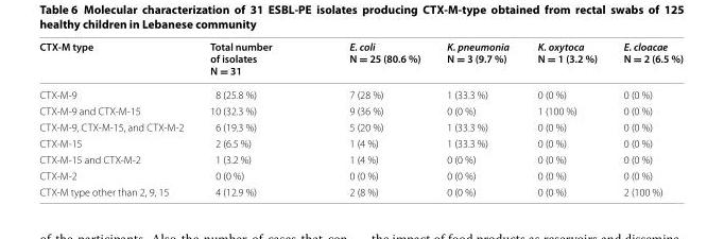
<table><thead><tr><td>CTX‑M type</td><td>Total number of isolates N = 31</td><td>E. coli N = 25 (80.6 %)</td><td>K. pneumonia N = 3 (9.7 %)</td><td>K. oxytoca N = 1 (3.2 %)</td><td>E. cloacae N = 2 (6.5 %)</td></tr></thead><tbody><tr><td>CTX-M-9</td><td>8 (25.8 %)</td><td>7 (28 %)</td><td>1 (33.3 %)</td><td>0 (0 %)</td><td>0 (0 %)</td></tr><tr><td>CTX-M-9 and CTX-M-15</td><td>10 (32.3 %)</td><td>9 (36 %)</td><td>0 (0 %)</td><td>1 (100 %)</td><td>0 (0 %)</td></tr><tr><td>CTX-M-9, CTX-M-15, and CTX-M-2</td><td>6 (19.3 %)</td><td>5 (20 %)</td><td>1 (33.3 %)</td><td>0 (0 %)</td><td>0 (0 %)</td></tr><tr><td>CTX-M-15</td><td>2 (6.5 %)</td><td>1 (4 %)</td><td>1 (33.3 %)</td><td>0 (0 %)</td><td>0 (0 %)</td></tr><tr><td>CTX-M-15 and CTX-M-2</td><td>1 (3.2 %)</td><td>1 (4 %)</td><td>0 (0 %)</td><td>0 (0 %)</td><td>0 (0 %)</td></tr><tr><td>CTX-M-2</td><td>0 (0 %)</td><td>0 (0 %)</td><td>0 (0 %)</td><td>0 (0 %)</td><td>0 (0 %)</td></tr><tr><td>CTX-M type other than 2, 9, 15</td><td>4 (12.9 %)</td><td>2 (8 %)</td><td>0 (0 %)</td><td>0 (0 %)</td><td>2 (100 %)</td></tr></tbody></table>